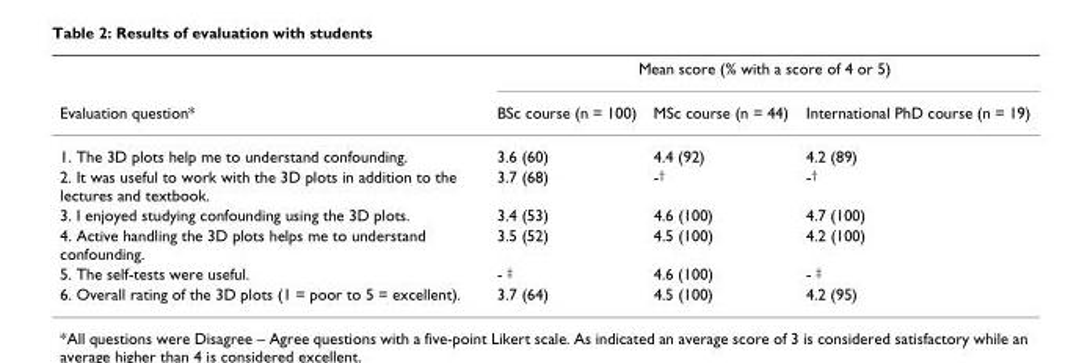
<table><thead><tr><td rowspan="2">Evaluation question*</td><td colspan="3">Mean score (% with a score of 4 or 5)</td></tr><tr><td>BSc course (n = 100)</td><td>MSc course (n = 44)</td><td>International PhD course (n = 19)</td></tr></thead><tbody><tr><td>1. The 3D plots help me to understand confounding.</td><td>3.6 (60)</td><td>4.4 (92)</td><td>4.2 (89)</td></tr><tr><td>2. It was useful to work with the 3D plots in addition to the lectures and textbook.</td><td>3.7 (68)</td><td>-<sup>†</sup></td><td>-<sup>†</sup></td></tr><tr><td>3. I enjoyed studying confounding using the 3D plots.</td><td>3.4 (53)</td><td>4.6 (100)</td><td>4.7 (100)</td></tr><tr><td>4. Active handling the 3D plots helps me to understand confounding.</td><td>3.5 (52)</td><td>4.5 (100)</td><td>4.2 (100)</td></tr><tr><td>5. The self-tests were useful.</td><td>- <sup>‡</sup></td><td>4.6 (100)</td><td>- <sup>‡</sup></td></tr><tr><td>6. Overall rating of the 3D plots (1 = poor to 5 = excellent).</td><td>3.7 (64)</td><td>4.5 (100)</td><td>4.2 (95)</td></tr></tbody></table>